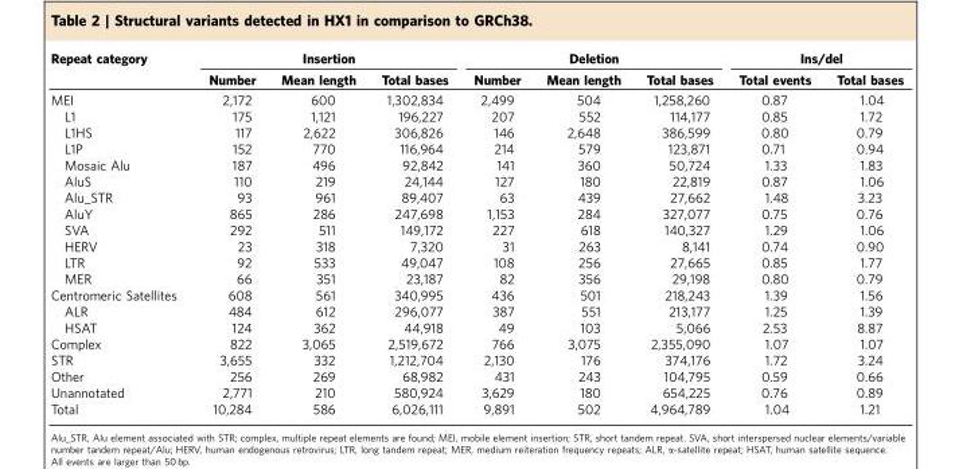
<table><thead><tr><td rowspan="2">Repeat category</td><td colspan="3">Insertion</td><td colspan="3">Deletion</td><td colspan="2">Ins/del</td></tr><tr><td>Number</td><td>Mean length</td><td>Total bases</td><td>Number</td><td>Mean length</td><td>Total bases</td><td>Total events</td><td>Total bases</td></tr></thead><tbody><tr><td>MEI</td><td>2,172</td><td>600</td><td>1,302,834</td><td>2,499</td><td>504</td><td>1,258,260</td><td>0.87</td><td>1.04</td></tr><tr><td>L1</td><td>175</td><td>1,121</td><td>196,227</td><td>207</td><td>552</td><td>114,177</td><td>0.85</td><td>1.72</td></tr><tr><td>L1HS</td><td>117</td><td>2,622</td><td>306,826</td><td>146</td><td>2,648</td><td>386,599</td><td>0.80</td><td>0.79</td></tr><tr><td>L1P</td><td>152</td><td>770</td><td>116,964</td><td>214</td><td>579</td><td>123,871</td><td>0.71</td><td>0.94</td></tr><tr><td>Mosaic Alu</td><td>187</td><td>496</td><td>92,842</td><td>141</td><td>360</td><td>50,724</td><td>1.33</td><td>1.83</td></tr><tr><td>AluS</td><td>110</td><td>219</td><td>24,144</td><td>127</td><td>180</td><td>22,819</td><td>0.87</td><td>1.06</td></tr><tr><td>Alu_STR</td><td>93</td><td>961</td><td>89,407</td><td>63</td><td>439</td><td>27,662</td><td>1.48</td><td>3.23</td></tr><tr><td>AluY</td><td>865</td><td>286</td><td>247,698</td><td>1,153</td><td>284</td><td>327,077</td><td>0.75</td><td>0.76</td></tr><tr><td>SVA</td><td>292</td><td>511</td><td>149,172</td><td>227</td><td>618</td><td>140,327</td><td>1.29</td><td>1.06</td></tr><tr><td>HERV</td><td>23</td><td>318</td><td>7,320</td><td>31</td><td>263</td><td>8,141</td><td>0.74</td><td>0.90</td></tr><tr><td>LTR</td><td>92</td><td>533</td><td>49,047</td><td>108</td><td>256</td><td>27,665</td><td>0.85</td><td>1.77</td></tr><tr><td>MER</td><td>66</td><td>351</td><td>23,187</td><td>82</td><td>356</td><td>29,198</td><td>0.80</td><td>0.79</td></tr><tr><td>Centromeric Satellites</td><td>608</td><td>561</td><td>340,995</td><td>436</td><td>501</td><td>218,243</td><td>1.39</td><td>1.56</td></tr><tr><td>ALR</td><td>484</td><td>612</td><td>296,077</td><td>387</td><td>551</td><td>213,177</td><td>1.25</td><td>1.39</td></tr><tr><td>HSAT</td><td>124</td><td>362</td><td>44,918</td><td>49</td><td>103</td><td>5,066</td><td>2.53</td><td>8.87</td></tr><tr><td>Complex</td><td>822</td><td>3,065</td><td>2,519,672</td><td>766</td><td>3,075</td><td>2,355,090</td><td>1.07</td><td>1.07</td></tr><tr><td>STR</td><td>3,655</td><td>332</td><td>1,212,704</td><td>2,130</td><td>176</td><td>374,176</td><td>1.72</td><td>3.24</td></tr><tr><td>Other</td><td>256</td><td>269</td><td>68,982</td><td>431</td><td>243</td><td>104,795</td><td>0.59</td><td>0.66</td></tr><tr><td>Unannotated</td><td>2,771</td><td>210</td><td>580,924</td><td>3,629</td><td>180</td><td>654,225</td><td>0.76</td><td>0.89</td></tr><tr><td>Total</td><td>10,284</td><td>586</td><td>6,026,111</td><td>9,891</td><td>502</td><td>4,964,789</td><td>1.04</td><td>1.21</td></tr></tbody></table>